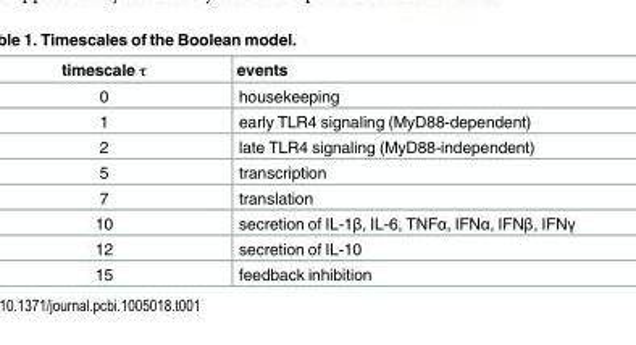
<table><thead><tr><td>timescale τ</td><td>events</td></tr></thead><tbody><tr><td>0</td><td>housekeeping</td></tr><tr><td>1</td><td>early TLR4 signaling (MyD88-dependent)</td></tr><tr><td>2</td><td>late TLR4 signaling (MyD88-independent)</td></tr><tr><td>5</td><td>transcription</td></tr><tr><td>7</td><td>translation</td></tr><tr><td>10</td><td>secretion of IL-1β, IL-6, TNFα, IFNα, IFNβ, IFNγ</td></tr><tr><td>12</td><td>secretion of IL-10</td></tr><tr><td>15</td><td>feedback inhibition</td></tr></tbody></table>